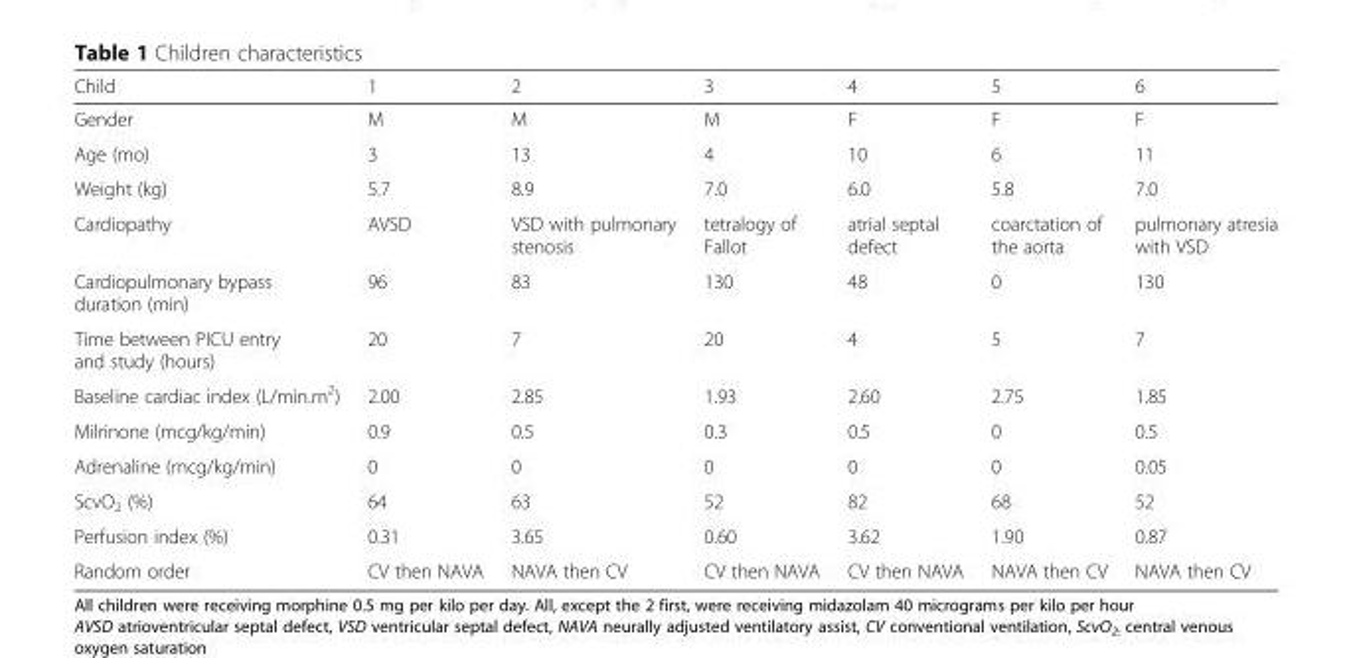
<table><thead><tr><td>Child</td><td>1</td><td>2</td><td>3</td><td>4</td><td>5</td><td>6</td></tr></thead><tbody><tr><td>Gender</td><td>M</td><td>M</td><td>M</td><td>F</td><td>F</td><td>F</td></tr><tr><td>Age (mo)</td><td>3</td><td>13</td><td>4</td><td>10</td><td>6</td><td>11</td></tr><tr><td>Weight (kg)</td><td>5.7</td><td>8.9</td><td>7.0</td><td>6.0</td><td>5.8</td><td>7.0</td></tr><tr><td>Cardiopathy</td><td>AVSD</td><td>VSD with pulmonary stenosis</td><td>tetralogy of Fallot</td><td>atrial septal defect</td><td>coarctation of the aorta</td><td>pulmonary atresia with VSD</td></tr><tr><td>Cardiopulmonary bypass duration (min)</td><td>96</td><td>83</td><td>130</td><td>48</td><td>0</td><td>130</td></tr><tr><td>Time between PICU entry and study (hours)</td><td>20</td><td>7</td><td>20</td><td>4</td><td>5</td><td>7</td></tr><tr><td>Baseline cardiac index (L/min.m<sup>2</sup>)</td><td>2.00</td><td>2.85</td><td>1.93</td><td>2.60</td><td>2.75</td><td>1.85</td></tr><tr><td>Milrinone (mcg/kg/min)</td><td>0.9</td><td>0.5</td><td>0.3</td><td>0.5</td><td>0</td><td>0.5</td></tr><tr><td>Adrenaline (mcg/kg/min)</td><td>0</td><td>0</td><td>0</td><td>0</td><td>0</td><td>0.05</td></tr><tr><td>ScvO<sub>2</sub> (%)</td><td>64</td><td>63</td><td>52</td><td>82</td><td>68</td><td>52</td></tr><tr><td>Perfusion index (%)</td><td>0.31</td><td>3.65</td><td>0.60</td><td>3.62</td><td>1.90</td><td>0.87</td></tr><tr><td>Random order</td><td>CV then NAVA</td><td>NAVA then CV</td><td>CV then NAVA</td><td>CV then NAVA</td><td>NAVA then CV</td><td>NAVA then CV</td></tr></tbody></table>